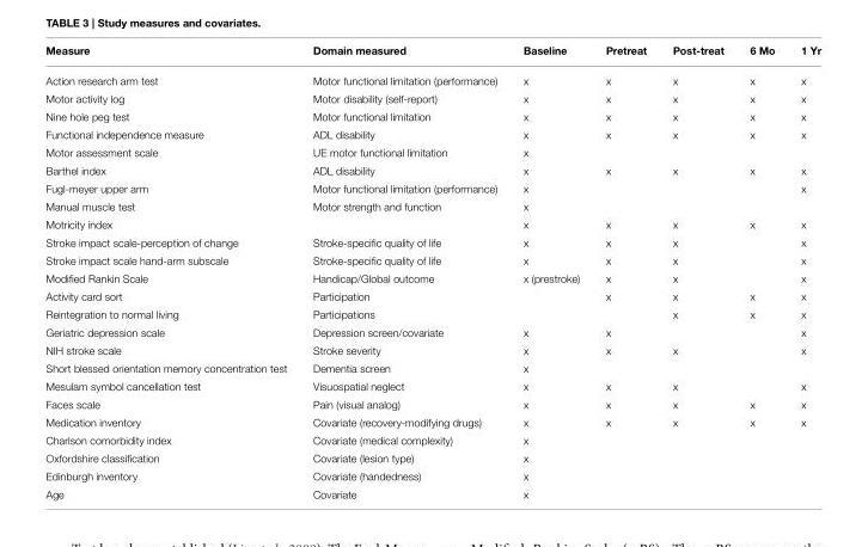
<table><thead><tr><td>Measure</td><td>Domain measured</td><td>Baseline</td><td>Pretreat</td><td>Post-treat</td><td>6 Mo</td><td>1 Yr</td></tr></thead><tbody><tr><td>Action research arm test</td><td>Motor functional limitation (performance)</td><td>x</td><td>x</td><td>x</td><td>x</td><td>x</td></tr><tr><td>Motor activity log</td><td>Motor disability (self-report)</td><td>x</td><td>x</td><td>x</td><td>x</td><td>x</td></tr><tr><td>Nine hole peg test</td><td>Motor functional limitation</td><td>x</td><td>x</td><td>x</td><td>x</td><td>x</td></tr><tr><td>Functional independence measure</td><td>ADL disability</td><td>x</td><td>x</td><td>x</td><td>x</td><td>x</td></tr><tr><td>Motor assessment scale</td><td>UE motor functional limitation</td><td>x</td><td></td><td></td><td></td><td></td></tr><tr><td>Barthel index</td><td>ADL disability</td><td>x</td><td>x</td><td>x</td><td>x</td><td>x</td></tr><tr><td>Fugl-meyer upper arm</td><td>Motor functional limitation (performance)</td><td>x</td><td></td><td></td><td></td><td>x</td></tr><tr><td>Manual muscle test</td><td>Motor strength and function</td><td>x</td><td></td><td></td><td></td><td></td></tr><tr><td>Motricity index</td><td></td><td>x</td><td>x</td><td>x</td><td>x</td><td>x</td></tr><tr><td>Stroke impact scale-perception of change</td><td>Stroke-specific quality of life</td><td>x</td><td>x</td><td>x</td><td></td><td>x</td></tr><tr><td>Stroke impact scale hand-arm subscale</td><td>Stroke-specific quality of life</td><td>x</td><td>x</td><td>x</td><td></td><td>x</td></tr><tr><td>Modified Rankin Scale</td><td>Handicap/Global outcome</td><td>x (prestroke)</td><td>x</td><td>x</td><td></td><td>x</td></tr><tr><td>Activity card sort</td><td>Participation</td><td></td><td>x</td><td>x</td><td>x</td><td>x</td></tr><tr><td>Reintegration to normal living</td><td>Participations</td><td></td><td></td><td>x</td><td>x</td><td>x</td></tr><tr><td>Geriatric depression scale</td><td>Depression screen/covariate</td><td>x</td><td>x</td><td></td><td></td><td>x</td></tr><tr><td>NIH stroke scale</td><td>Stroke severity</td><td>x</td><td>x</td><td>x</td><td></td><td>x</td></tr><tr><td>Short blessed orientation memory concentration test</td><td>Dementia screen</td><td>x</td><td></td><td></td><td></td><td></td></tr><tr><td>Mesulam symbol cancellation test</td><td>Visuospatial neglect</td><td>x</td><td>x</td><td>x</td><td></td><td>x</td></tr><tr><td>Faces scale</td><td>Pain (visual analog)</td><td>x</td><td>x</td><td>x</td><td>x</td><td>x</td></tr><tr><td>Medication inventory</td><td>Covariate (recovery-modifying drugs)</td><td>x</td><td>x</td><td>x</td><td>x</td><td>x</td></tr><tr><td>Charlson comorbidity index</td><td>Covariate (medical complexity)</td><td>x</td><td></td><td></td><td></td><td></td></tr><tr><td>Oxfordshire classification</td><td>Covariate (lesion type)</td><td>x</td><td></td><td></td><td></td><td></td></tr><tr><td>Edinburgh inventory</td><td>Covariate (handedness)</td><td>x</td><td></td><td></td><td></td><td></td></tr><tr><td>Age</td><td>Covariate</td><td>x</td><td></td><td></td><td></td><td></td></tr></tbody></table>